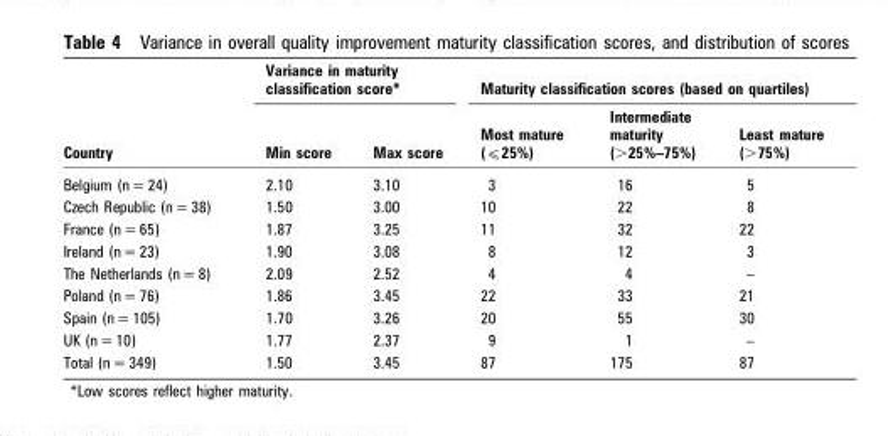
<table><thead><tr><td rowspan="2">Country</td><td colspan="2">Variance in maturity classification score*</td><td colspan="3">Maturity classification scores (based on quartiles)</td></tr><tr><td>Min score</td><td>Max score</td><td>Most mature (⩽25%)</td><td>Intermediate maturity (&gt;25%–75%)</td><td>Least mature (&gt;75%)</td></tr></thead><tbody><tr><td>Belgium (n = 24)</td><td>2.10</td><td>3.10</td><td>3</td><td>16</td><td>5</td></tr><tr><td>Czech Republic (n = 38)</td><td>1.50</td><td>3.00</td><td>10</td><td>22</td><td>8</td></tr><tr><td>France (n = 65)</td><td>1.87</td><td>3.25</td><td>11</td><td>32</td><td>22</td></tr><tr><td>Ireland (n = 23)</td><td>1.90</td><td>3.08</td><td>8</td><td>12</td><td>3</td></tr><tr><td>The Netherlands (n = 8)</td><td>2.09</td><td>2.52</td><td>4</td><td>4</td><td>–</td></tr><tr><td>Poland (n = 76)</td><td>1.86</td><td>3.45</td><td>22</td><td>33</td><td>21</td></tr><tr><td>Spain (n = 105)</td><td>1.70</td><td>3.26</td><td>20</td><td>55</td><td>30</td></tr><tr><td>UK (n = 10)</td><td>1.77</td><td>2.37</td><td>9</td><td>1</td><td>–</td></tr><tr><td>Total (n = 349)</td><td>1.50</td><td>3.45</td><td>87</td><td>175</td><td>87</td></tr></tbody></table>